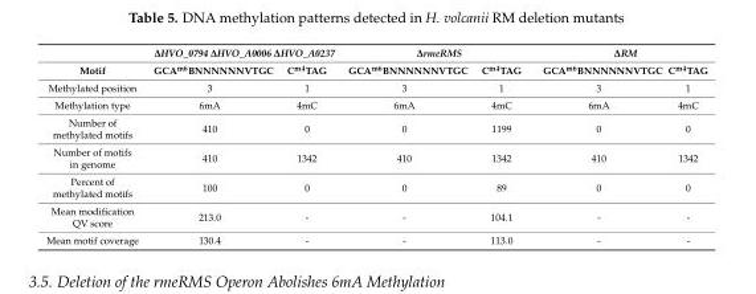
<table><thead><tr><td rowspan="2">Motif</td><td colspan="2">∆HVO_0794 ∆HVO_A0006 ∆HVO_A0237</td><td colspan="2">∆rmeRMS</td><td colspan="2">∆RM</td></tr><tr><td>GCA<sup>m6</sup>BNNNNNNVTGC</td><td>C<sup>m4</sup>TAG</td><td>GCA<sup>m6</sup>BNNNNNNVTGC</td><td>C<sup>m4</sup>TAG</td><td>GCA<sup>m6</sup>BNNNNNNVTGC</td><td>C<sup>m4</sup>TAG</td></tr></thead><tbody><tr><td>Methylated position</td><td>3</td><td>1</td><td>3</td><td>1</td><td>3</td><td>1</td></tr><tr><td>Methylation type</td><td>6mA</td><td>4mC</td><td>6mA</td><td>4mC</td><td>6mA</td><td>4mC</td></tr><tr><td>Number of methylated motifs</td><td>410</td><td>0</td><td>0</td><td>1199</td><td>0</td><td>0</td></tr><tr><td>Number of motifs in genome</td><td>410</td><td>1342</td><td>410</td><td>1342</td><td>410</td><td>1342</td></tr><tr><td>Percent of methylated motifs</td><td>100</td><td>0</td><td>0</td><td>89</td><td>0</td><td>0</td></tr><tr><td>Mean modification QV score</td><td>213.0</td><td>-</td><td>-</td><td>104.1</td><td>-</td><td>-</td></tr><tr><td>Mean motif coverage</td><td>130.4</td><td>-</td><td>-</td><td>113.0</td><td>-</td><td>-</td></tr></tbody></table>